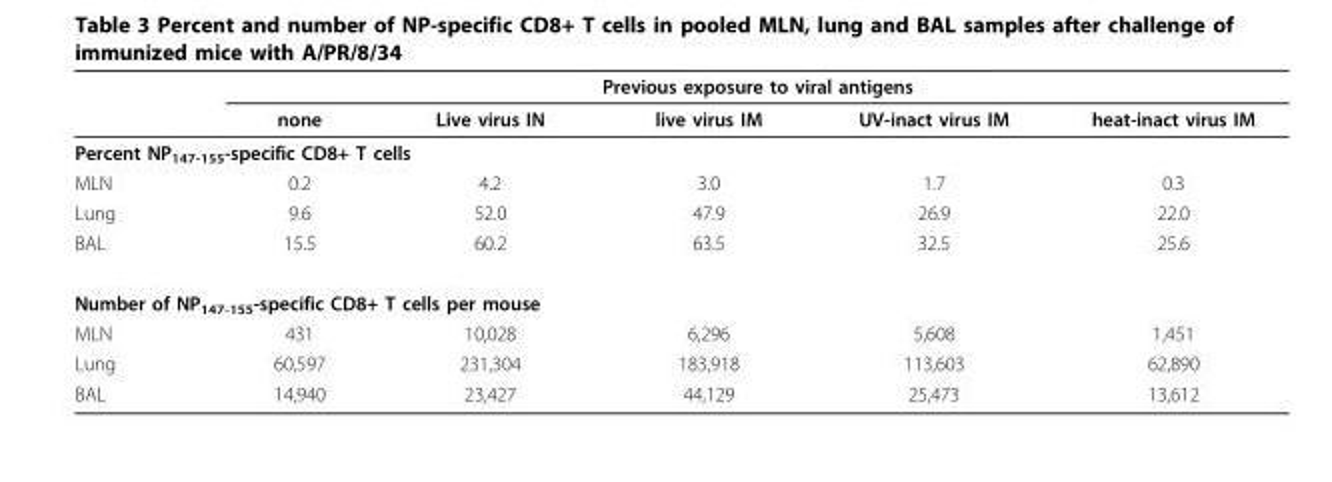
<table><thead><tr><td rowspan="2"></td><td colspan="5">Previous exposure to viral antigens</td></tr><tr><td>none</td><td>Live virus IN</td><td>live virus IM</td><td>UV-inact virus IM</td><td>heat-inact virus IM</td></tr></thead><tbody><tr><td colspan="6">Percent NP<sub>147-155</sub>-specific CD8+ T cells</td></tr><tr><td>MLN</td><td>0.2</td><td>4.2</td><td>3.0</td><td>1.7</td><td>0.3</td></tr><tr><td>Lung</td><td>9.6</td><td>52.0</td><td>47.9</td><td>26.9</td><td>22.0</td></tr><tr><td>BAL</td><td>15.5</td><td>60.2</td><td>63.5</td><td>32.5</td><td>25.6</td></tr><tr><td colspan="6">Number of NP<sub>147-155</sub>-specific CD8+ T cells per mouse</td></tr><tr><td>MLN</td><td>431</td><td>10,028</td><td>6,296</td><td>5,608</td><td>1,451</td></tr><tr><td>Lung</td><td>60,597</td><td>231,304</td><td>183,918</td><td>113,603</td><td>62,890</td></tr><tr><td>BAL</td><td>14,940</td><td>23,427</td><td>44,129</td><td>25,473</td><td>13,612</td></tr></tbody></table>